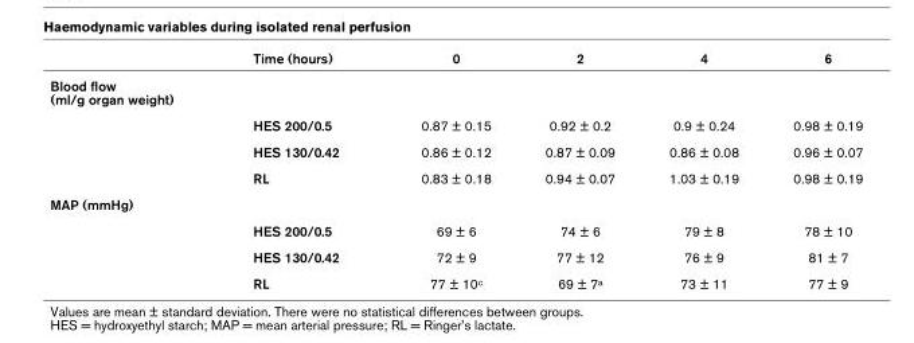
<table><thead><tr><td></td><td>Time (hours)</td><td>0</td><td>2</td><td>4</td><td>6</td></tr></thead><tbody><tr><td colspan="6">Blood flow (ml/g organ weight)</td></tr><tr><td></td><td>HES 200/0.5</td><td>0.87 ± 0.15</td><td>0.92 ± 0.2</td><td>0.9 ± 0.24</td><td>0.98 ± 0.19</td></tr><tr><td></td><td>HES 130/0.42</td><td>0.86 ± 0.12</td><td>0.87 ± 0.09</td><td>0.86 ± 0.08</td><td>0.96 ± 0.07</td></tr><tr><td></td><td>RL</td><td>0.83 ± 0.18</td><td>0.94 ± 0.07</td><td>1.03 ± 0.19</td><td>0.98 ± 0.19</td></tr><tr><td colspan="6">MAP (mmHg)</td></tr><tr><td></td><td>HES 200/0.5</td><td>69 ± 6</td><td>74 ± 6</td><td>79 ± 8</td><td>78 ± 10</td></tr><tr><td></td><td>HES 130/0.42</td><td>72 ± 9</td><td>77 ± 12</td><td>76 ± 9</td><td>81 ± 7</td></tr><tr><td></td><td>RL</td><td>77 ± 10<sup>c</sup></td><td>69 ± 7<sup>a</sup></td><td>73 ± 11</td><td>77 ± 9</td></tr></tbody></table>